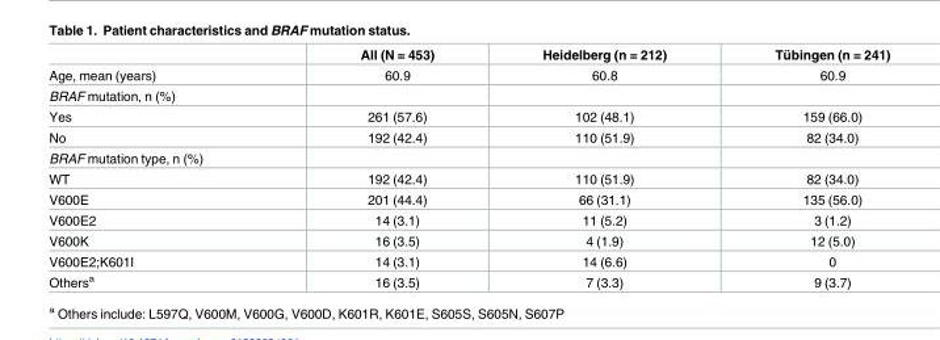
<table><thead><tr><td></td><td>All (N = 453)</td><td>Heidelberg (n = 212)</td><td>Tu¨bingen (n = 241)</td></tr></thead><tbody><tr><td>Age, mean (years)</td><td>60.9</td><td>60.8</td><td>60.9</td></tr><tr><td colspan="4">BRAF mutation, n (%)</td></tr><tr><td>Yes</td><td>261 (57.6)</td><td>102 (48.1)</td><td>159 (66.0)</td></tr><tr><td>No</td><td>192 (42.4)</td><td>110 (51.9)</td><td>82 (34.0)</td></tr><tr><td colspan="4">BRAF mutation type, n (%)</td></tr><tr><td>WT</td><td>192 (42.4)</td><td>110 (51.9)</td><td>82 (34.0)</td></tr><tr><td>V600E</td><td>201 (44.4)</td><td>66 (31.1)</td><td>135 (56.0)</td></tr><tr><td>V600E2</td><td>14 (3.1)</td><td>11 (5.2)</td><td>3 (1.2)</td></tr><tr><td>V600K</td><td>16 (3.5)</td><td>4 (1.9)</td><td>12 (5.0)</td></tr><tr><td>V600E2;K601I</td><td>14 (3.1)</td><td>14 (6.6)</td><td>0</td></tr><tr><td>Others<sup>a</sup></td><td>16 (3.5)</td><td>7 (3.3)</td><td>9 (3.7)</td></tr></tbody></table>